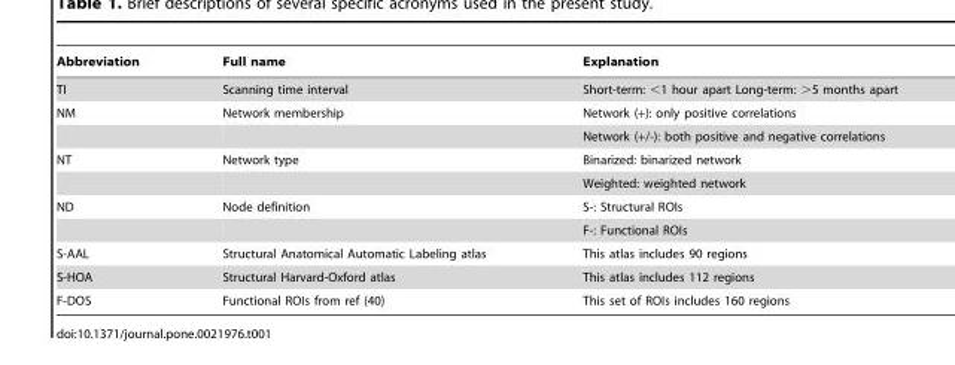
<table><thead><tr><td>Abbreviation</td><td>Full name</td><td>Explanation</td></tr></thead><tbody><tr><td>TI</td><td>Scanning time interval</td><td>Short-term: &lt;1 hour apart Long-term: &gt;5 months apart</td></tr><tr><td rowspan="2">NM</td><td>Network membership</td><td>Network (+): only positive correlations</td></tr><tr><td></td><td>Network (+/-): both positive and negative correlations</td></tr><tr><td rowspan="2">NT</td><td>Network type</td><td>Binarized: binarized network</td></tr><tr><td></td><td>Weighted: weighted network</td></tr><tr><td rowspan="2">ND</td><td>Node definition</td><td>S-: Structural ROIs</td></tr><tr><td></td><td>F-: Functional ROIs</td></tr><tr><td>S-AAL</td><td>Structural Anatomical Automatic Labeling atlas</td><td>This atlas includes 90 regions</td></tr><tr><td>S-HOA</td><td>Structural Harvard-Oxford atlas</td><td>This atlas includes 112 regions</td></tr><tr><td>F-DOS</td><td>Functional ROIs from ref (40)</td><td>This set of ROIs includes 160 regions</td></tr></tbody></table>